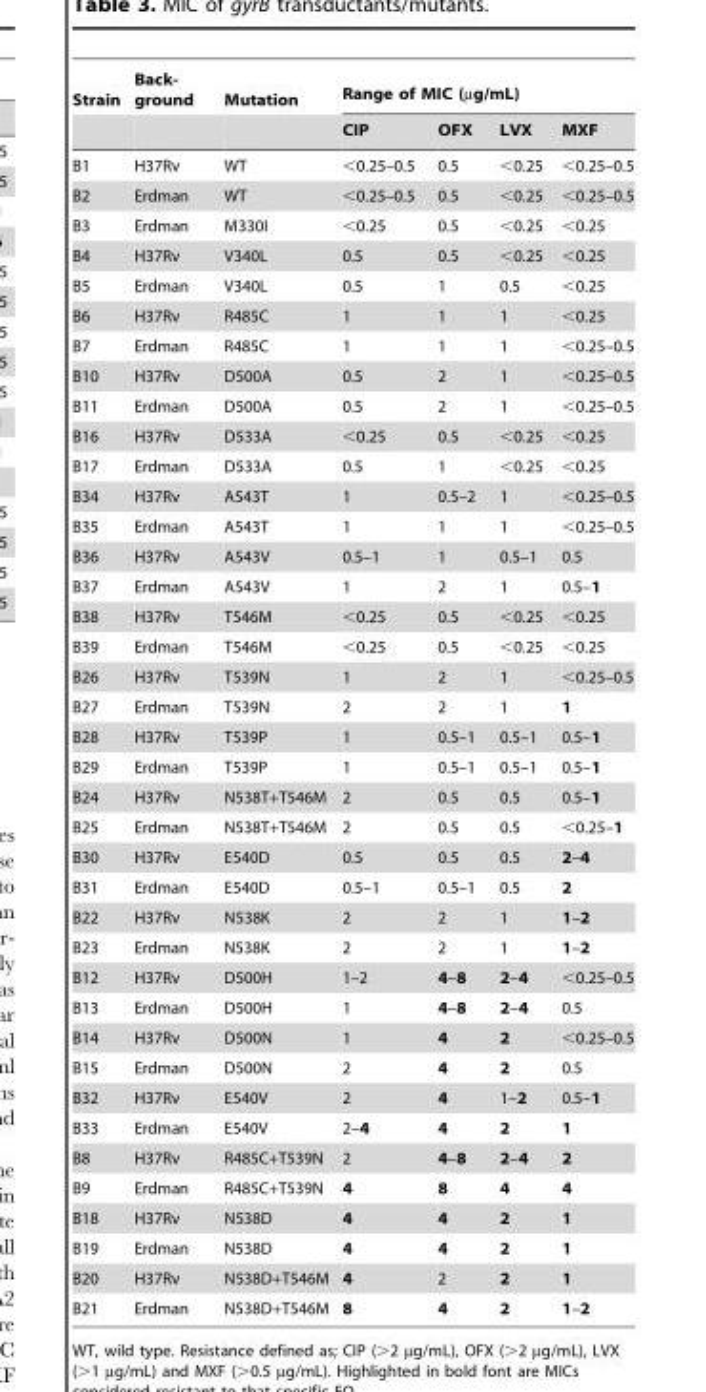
<table><thead><tr><td rowspan="2">Strain</td><td rowspan="2">Back- ground</td><td rowspan="2">Mutation</td><td colspan="4">Range of MIC (µg/mL)</td></tr><tr><td>CIP</td><td>OFX</td><td>LVX</td><td>MXF</td></tr></thead><tbody><tr><td>B1</td><td>H37Rv</td><td>WT</td><td>&lt;0.25–0.5</td><td>0.5</td><td>&lt;0.25</td><td>&lt;0.25–0.5</td></tr><tr><td>B2</td><td>Erdman</td><td>WT</td><td>&lt;0.25–0.5</td><td>0.5</td><td>&lt;0.25</td><td>&lt;0.25–0.5</td></tr><tr><td>B3</td><td>Erdman</td><td>M330I</td><td>&lt;0.25</td><td>0.5</td><td>&lt;0.25</td><td>&lt;0.25</td></tr><tr><td>B4</td><td>H37Rv</td><td>V340L</td><td>0.5</td><td>0.5</td><td>&lt;0.25</td><td>&lt;0.25</td></tr><tr><td>B5</td><td>Erdman</td><td>V340L</td><td>0.5</td><td>1</td><td>0.5</td><td>&lt;0.25</td></tr><tr><td>B6</td><td>H37Rv</td><td>R485C</td><td>1</td><td>1</td><td>1</td><td>&lt;0.25</td></tr><tr><td>B7</td><td>Erdman</td><td>R485C</td><td>1</td><td>1</td><td>1</td><td>&lt;0.25–0.5</td></tr><tr><td>B10</td><td>H37Rv</td><td>D500A</td><td>0.5</td><td>2</td><td>1</td><td>&lt;0.25–0.5</td></tr><tr><td>B11</td><td>Erdman</td><td>D500A</td><td>0.5</td><td>2</td><td>1</td><td>&lt;0.25–0.5</td></tr><tr><td>B16</td><td>H37Rv</td><td>D533A</td><td>&lt;0.25</td><td>0.5</td><td>&lt;0.25</td><td>&lt;0.25</td></tr><tr><td>B17</td><td>Erdman</td><td>D533A</td><td>0.5</td><td>1</td><td>&lt;0.25</td><td>&lt;0.25</td></tr><tr><td>B34</td><td>H37Rv</td><td>A543T</td><td>1</td><td>0.5–2</td><td>1</td><td>&lt;0.25–0.5</td></tr><tr><td>B35</td><td>Erdman</td><td>A543T</td><td>1</td><td>1</td><td>1</td><td>&lt;0.25–0.5</td></tr><tr><td>B36</td><td>H37Rv</td><td>A543V</td><td>0.5–1</td><td>1</td><td>0.5–1</td><td>0.5</td></tr><tr><td>B37</td><td>Erdman</td><td>A543V</td><td>1</td><td>2</td><td>1</td><td>0.5–1</td></tr><tr><td>B38</td><td>H37Rv</td><td>T546M</td><td>&lt;0.25</td><td>0.5</td><td>&lt;0.25</td><td>&lt;0.25</td></tr><tr><td>B39</td><td>Erdman</td><td>T546M</td><td>&lt;0.25</td><td>0.5</td><td>&lt;0.25</td><td>&lt;0.25</td></tr><tr><td>B26</td><td>H37Rv</td><td>T539N</td><td>1</td><td>2</td><td>1</td><td>&lt;0.25–0.5</td></tr><tr><td>B27</td><td>Erdman</td><td>T539N</td><td>2</td><td>2</td><td>1</td><td>1</td></tr><tr><td>B28</td><td>H37Rv</td><td>T539P</td><td>1</td><td>0.5–1</td><td>0.5–1</td><td>0.5–1</td></tr><tr><td>B29</td><td>Erdman</td><td>T539P</td><td>1</td><td>0.5–1</td><td>0.5–1</td><td>0.5–1</td></tr><tr><td>B24</td><td>H37Rv</td><td>N538T+T546M</td><td>2</td><td>0.5</td><td>0.5</td><td>0.5–1</td></tr><tr><td>B25</td><td>Erdman</td><td>N538T+T546M</td><td>2</td><td>0.5</td><td>0.5</td><td>&lt;0.25–1</td></tr><tr><td>B30</td><td>H37Rv</td><td>E540D</td><td>0.5</td><td>0.5</td><td>0.5</td><td>2–4</td></tr><tr><td>B31</td><td>Erdman</td><td>E540D</td><td>0.5–1</td><td>0.5–1</td><td>0.5</td><td>2</td></tr><tr><td>B22</td><td>H37Rv</td><td>N538K</td><td>2</td><td>2</td><td>1</td><td>1–2</td></tr><tr><td>B23</td><td>Erdman</td><td>N538K</td><td>2</td><td>2</td><td>1</td><td>1–2</td></tr><tr><td>B12</td><td>H37Rv</td><td>D500H</td><td>1–2</td><td>4–8</td><td>2–4</td><td>&lt;0.25–0.5</td></tr><tr><td>B13</td><td>Erdman</td><td>D500H</td><td>1</td><td>4–8</td><td>2–4</td><td>0.5</td></tr><tr><td>B14</td><td>H37Rv</td><td>D500N</td><td>1</td><td>4</td><td>2</td><td>&lt;0.25–0.5</td></tr><tr><td>B15</td><td>Erdman</td><td>D500N</td><td>2</td><td>4</td><td>2</td><td>0.5</td></tr><tr><td>B32</td><td>H37Rv</td><td>E540V</td><td>2</td><td>4</td><td>1–2</td><td>0.5–1</td></tr><tr><td>B33</td><td>Erdman</td><td>E540V</td><td>2–4</td><td>4</td><td>2</td><td>1</td></tr><tr><td>B8</td><td>H37Rv</td><td>R485C+T539N</td><td>2</td><td>4–8</td><td>2–4</td><td>2</td></tr><tr><td>B9</td><td>Erdman</td><td>R485C+T539N</td><td>4</td><td>8</td><td>4</td><td>4</td></tr><tr><td>B18</td><td>H37Rv</td><td>N538D</td><td>4</td><td>4</td><td>2</td><td>1</td></tr><tr><td>B19</td><td>Erdman</td><td>N538D</td><td>4</td><td>4</td><td>2</td><td>1</td></tr><tr><td>B20</td><td>H37Rv</td><td>N538D+T546M</td><td>4</td><td>2</td><td>2</td><td>1</td></tr><tr><td>B21</td><td>Erdman</td><td>N538D+T546M</td><td>8</td><td>4</td><td>2</td><td>1–2</td></tr></tbody></table>